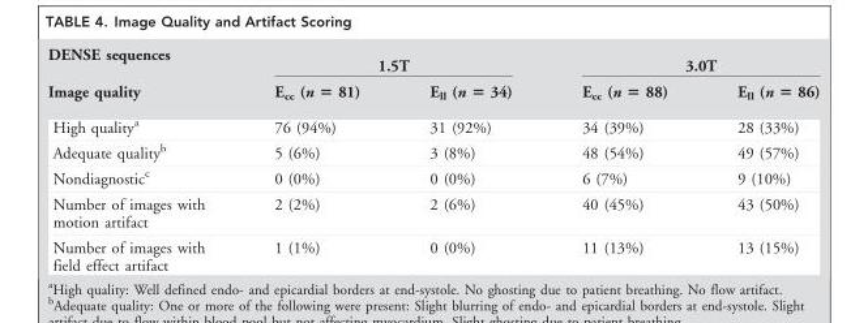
<table><thead><tr><td rowspan="2">DENSE sequences Image quality</td><td colspan="2">1.5T</td><td colspan="2">3.0T</td></tr><tr><td>E<sub>cc</sub> (n = 81)</td><td>E<sub>ll</sub> (n = 34)</td><td>E<sub>cc</sub> (n = 88)</td><td>E<sub>ll</sub> (n = 86)</td></tr></thead><tbody><tr><td>High quality<sup>a</sup></td><td>76 (94%)</td><td>31 (92%)</td><td>34 (39%)</td><td>28 (33%)</td></tr><tr><td>Adequate quality<sup>b</sup></td><td>5 (6%)</td><td>3 (8%)</td><td>48 (54%)</td><td>49 (57%)</td></tr><tr><td>Nondiagnostic<sup>c</sup></td><td>0 (0%)</td><td>0 (0%)</td><td>6 (7%)</td><td>9 (10%)</td></tr><tr><td>Number of images with motion artifact</td><td>2 (2%)</td><td>2 (6%)</td><td>40 (45%)</td><td>43 (50%)</td></tr><tr><td>Number of images with field effect artifact</td><td>1 (1%)</td><td>0 (0%)</td><td>11 (13%)</td><td>13 (15%)</td></tr></tbody></table>